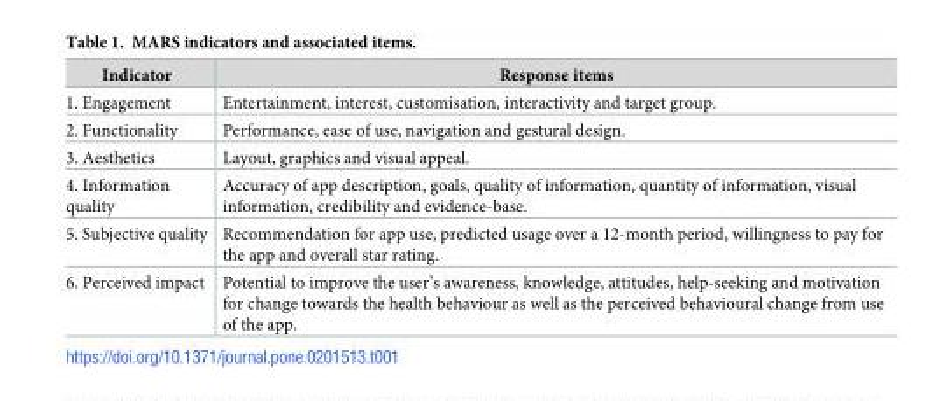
<table><thead><tr><td>Indicator</td><td>Response items</td></tr></thead><tbody><tr><td>1. Engagement</td><td>Entertainment, interest, customisation, interactivity and target group.</td></tr><tr><td>2. Functionality</td><td>Performance, ease of use, navigation and gestural design.</td></tr><tr><td>3. Aesthetics</td><td>Layout, graphics and visual appeal.</td></tr><tr><td>4. Information quality</td><td>Accuracy of app description, goals, quality of information, quantity of information, visual information, credibility and evidence-base.</td></tr><tr><td>5. Subjective quality</td><td>Recommendation for app use, predicted usage over a 12-month period, willingness to pay for the app and overall star rating.</td></tr><tr><td>6. Perceived impact</td><td>Potential to improve the user’s awareness, knowledge, attitudes, help-seeking and motivation for change towards the health behaviour as well as the perceived behavioural change from use of the app.</td></tr></tbody></table>